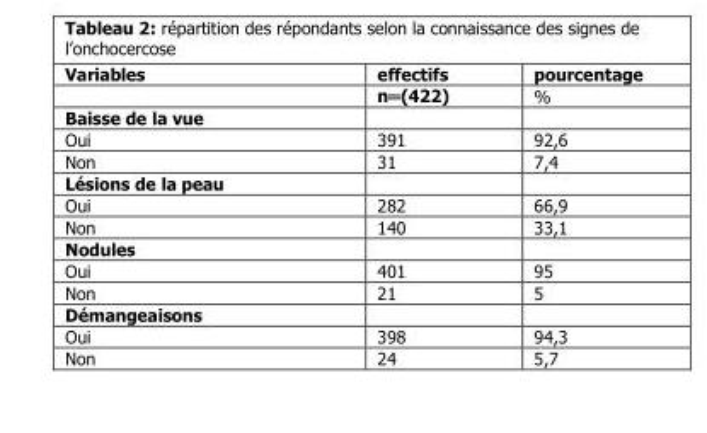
<table><thead><tr><td rowspan="2">Variables</td><td rowspan="2">effectifs n═(422)</td><td rowspan="2">pourcentage %</td></tr><tr></tr></thead><tbody><tr><td colspan="3">Baisse de la vue</td></tr><tr><td>Oui</td><td>391</td><td>92,6</td></tr><tr><td>Non</td><td>31</td><td>7,4</td></tr><tr><td colspan="3">Lésions de la peau</td></tr><tr><td>Oui</td><td>282</td><td>66,9</td></tr><tr><td>Non</td><td>140</td><td>33,1</td></tr><tr><td colspan="3">Nodules</td></tr><tr><td>Oui</td><td>401</td><td>95</td></tr><tr><td>Non</td><td>21</td><td>5</td></tr><tr><td colspan="3">Démangeaisons</td></tr><tr><td>Oui</td><td>398</td><td>94,3</td></tr><tr><td>Non</td><td>24</td><td>5,7</td></tr></tbody></table>